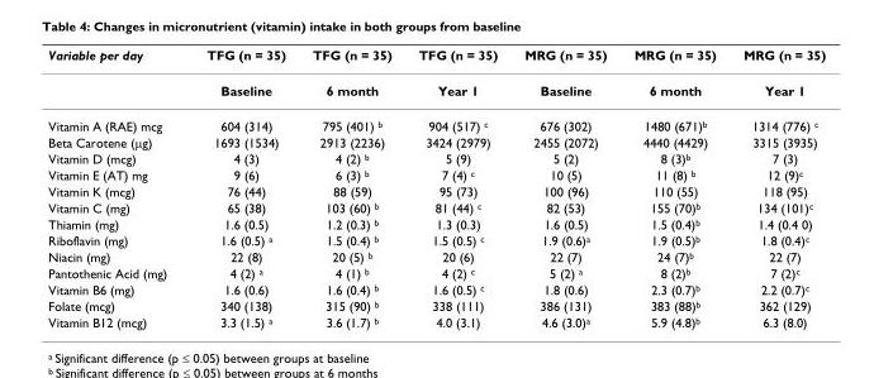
<table><thead><tr><td>Variable per day</td><td>TFG (n = 35)</td><td>TFG (n = 35)</td><td>TFG (n = 35)</td><td>MRG (n = 35)</td><td>MRG (n = 35)</td><td>MRG (n = 35)</td></tr></thead><tbody><tr><td></td><td>Baseline</td><td>6 month</td><td>Year 1</td><td>Baseline</td><td>6 month</td><td>Year 1</td></tr><tr><td>Vitamin A (RAE) mcg</td><td>604 (314)</td><td>795 (401) <sup>b</sup></td><td>904 (517) <sup>c</sup></td><td>676 (302)</td><td>1480 (671)<sup>b</sup></td><td>1314 (776) <sup>c</sup></td></tr><tr><td>Beta Carotene (μg)</td><td>1693 (1534)</td><td>2913 (2236)</td><td>3424 (2979)</td><td>2455 (2072)</td><td>4440 (4429)</td><td>3315 (3935)</td></tr><tr><td>Vitamin D (mcg)</td><td>4 (3)</td><td>4 (2) <sup>b</sup></td><td>5 (9)</td><td>5 (2)</td><td>8 (3)<sup>b</sup></td><td>7 (3)</td></tr><tr><td>Vitamin E (AT) mg</td><td>9 (6)</td><td>6 (3) <sup>b</sup></td><td>7 (4) <sup>c</sup></td><td>10 (5)</td><td>11 (8) <sup>b</sup></td><td>12 (9)<sup>c</sup></td></tr><tr><td>Vitamin K (mcg)</td><td>76 (44)</td><td>88 (59)</td><td>95 (73)</td><td>100 (96)</td><td>110 (55)</td><td>118 (95)</td></tr><tr><td>Vitamin C (mg)</td><td>65 (38)</td><td>103 (60) <sup>b</sup></td><td>81 (44) <sup>c</sup></td><td>82 (53)</td><td>155 (70)<sup>b</sup></td><td>134 (101)<sup>c</sup></td></tr><tr><td>Thiamin (mg)</td><td>1.6 (0.5)</td><td>1.2 (0.3) <sup>b</sup></td><td>1.3 (0.3)</td><td>1.6 (0.5)</td><td>1.5 (0.4)<sup>b</sup></td><td>1.4 (0.4 0)</td></tr><tr><td>Riboflavin (mg)</td><td>1.6 (0.5) <sup>a</sup></td><td>1.5 (0.4) <sup>b</sup></td><td>1.5 (0.5) <sup>c</sup></td><td>1.9 (0.6)<sup>a</sup></td><td>1.9 (0.5)<sup>b</sup></td><td>1.8 (0.4)<sup>c</sup></td></tr><tr><td>Niacin (mg)</td><td>22 (8)</td><td>20 (5) <sup>b</sup></td><td>20 (6)</td><td>22 (7)</td><td>24 (7)<sup>b</sup></td><td>22 (7)</td></tr><tr><td>Pantothenic Acid (mg)</td><td>4 (2) <sup>a</sup></td><td>4 (1) <sup>b</sup></td><td>4 (2) <sup>c</sup></td><td>5 (2) <sup>a</sup></td><td>8 (2)<sup>b</sup></td><td>7 (2)<sup>c</sup></td></tr><tr><td>Vitamin B6 (mg)</td><td>1.6 (0.6)</td><td>1.6 (0.4) <sup>b</sup></td><td>1.6 (0.5) <sup>c</sup></td><td>1.8 (0.6)</td><td>2.3 (0.7)<sup>b</sup></td><td>2.2 (0.7)<sup>c</sup></td></tr><tr><td>Folate (mcg)</td><td>340 (138)</td><td>315 (90) <sup>b</sup></td><td>338 (111)</td><td>386 (131)</td><td>383 (88)<sup>b</sup></td><td>362 (129)</td></tr><tr><td>Vitamin B12 (mcg)</td><td>3.3 (1.5) <sup>a</sup></td><td>3.6 (1.7) <sup>b</sup></td><td>4.0 (3.1)</td><td>4.6 (3.0)<sup>a</sup></td><td>5.9 (4.8)<sup>b</sup></td><td>6.3 (8.0)</td></tr></tbody></table>